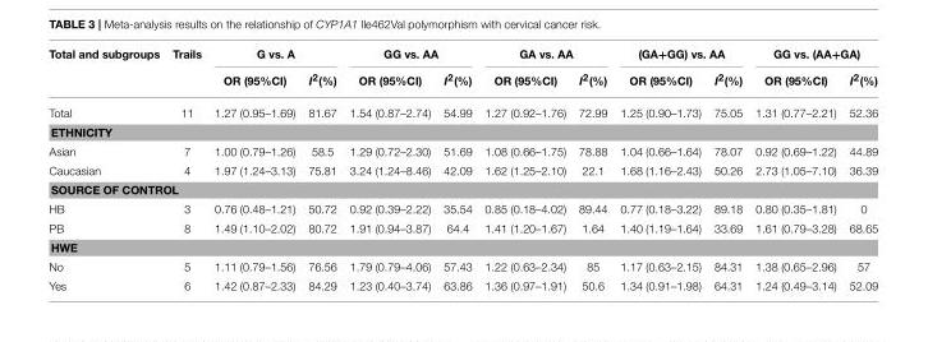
<table><thead><tr><td rowspan="2">Total and subgroups</td><td rowspan="2">Trails</td><td colspan="2">G vs. A</td><td colspan="2">GG vs. AA</td><td colspan="2">GA vs. AA</td><td colspan="2">(GA+GG) vs. AA</td><td colspan="2">GG vs. (AA+GA)</td></tr><tr><td>OR (95%CI)</td><td>I<sup>2</sup>(%)</td><td>OR (95%CI)</td><td>I<sup>2</sup>(%)</td><td>OR (95%CI)</td><td>I<sup>2</sup>(%)</td><td>OR (95%CI)</td><td>I<sup>2</sup>(%)</td><td>OR (95%CI)</td><td>I<sup>2</sup>(%)</td></tr></thead><tbody><tr><td>Total</td><td>11</td><td>1.27 (0.95–1.69)</td><td>81.67</td><td>1.54 (0.87–2.74)</td><td>54.99</td><td>1.27 (0.92–1.76)</td><td>72.99</td><td>1.25 (0.90–1.73)</td><td>75.05</td><td>1.31 (0.77–2.21)</td><td>52.36</td></tr><tr><td colspan="12">ETHNICITY</td></tr><tr><td>Asian</td><td>7</td><td>1.00 (0.79–1.26)</td><td>58.5</td><td>1.29 (0.72–2.30)</td><td>51.69</td><td>1.08 (0.66–1.75)</td><td>78.88</td><td>1.04 (0.66–1.64)</td><td>78.07</td><td>0.92 (0.69–1.22)</td><td>44.89</td></tr><tr><td>Caucasian</td><td>4</td><td>1.97 (1.24–3.13)</td><td>75.81</td><td>3.24 (1.24–8.46)</td><td>42.09</td><td>1.62 (1.25–2.10)</td><td>22.1</td><td>1.68 (1.16–2.43)</td><td>50.26</td><td>2.73 (1.05–7.10)</td><td>36.39</td></tr><tr><td colspan="12">SOURCE OF CONTROL</td></tr><tr><td>HB</td><td>3</td><td>0.76 (0.48–1.21)</td><td>50.72</td><td>0.92 (0.39–2.22)</td><td>35.54</td><td>0.85 (0.18–4.02)</td><td>89.44</td><td>0.77 (0.18–3.22)</td><td>89.18</td><td>0.80 (0.35–1.81)</td><td>0</td></tr><tr><td>PB</td><td>8</td><td>1.49 (1.10–2.02)</td><td>80.72</td><td>1.91 (0.94–3.87)</td><td>64.4</td><td>1.41 (1.20–1.67)</td><td>1.64</td><td>1.40 (1.19–1.64)</td><td>33.69</td><td>1.61 (0.79–3.28)</td><td>68.65</td></tr><tr><td colspan="12">HWE</td></tr><tr><td>No</td><td>5</td><td>1.11 (0.79–1.56)</td><td>76.56</td><td>1.79 (0.79–4.06)</td><td>57.43</td><td>1.22 (0.63–2.34)</td><td>85</td><td>1.17 (0.63–2.15)</td><td>84.31</td><td>1.38 (0.65–2.96)</td><td>57</td></tr><tr><td>Yes</td><td>6</td><td>1.42 (0.87–2.33)</td><td>84.29</td><td>1.23 (0.40–3.74)</td><td>63.86</td><td>1.36 (0.97–1.91)</td><td>50.6</td><td>1.34 (0.91–1.98)</td><td>64.31</td><td>1.24 (0.49–3.14)</td><td>52.09</td></tr></tbody></table>